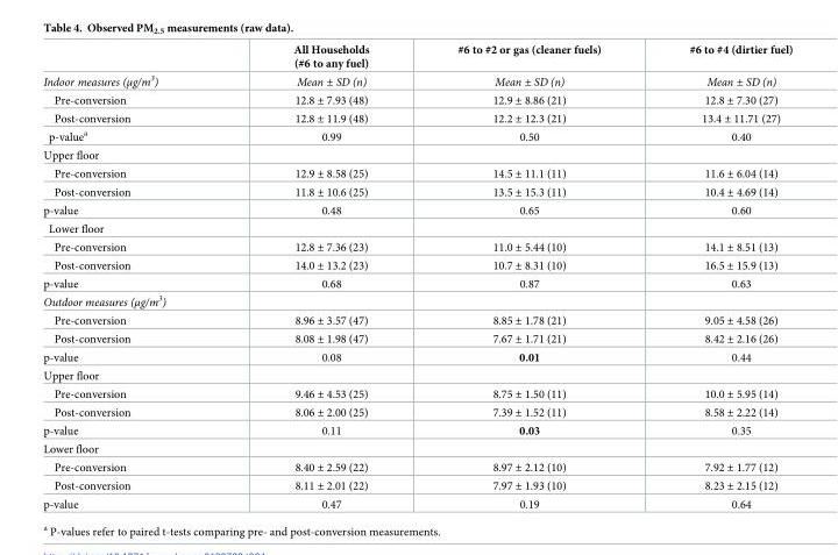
<table><thead><tr><td></td><td>All Households (#6 to any fuel)</td><td>#6 to #2 or gas (cleaner fuels)</td><td>#6 to #4 (dirtier fuel)</td></tr></thead><tbody><tr><td>Indoor measures (μg/m<sup>3</sup>)</td><td>Mean ± SD (n)</td><td>Mean ± SD (n)</td><td>Mean ± SD (n)</td></tr><tr><td>Pre-conversion</td><td>12.8 ± 7.93 (48)</td><td>12.9 ± 8.86 (21)</td><td>12.8 ± 7.30 (27)</td></tr><tr><td>Post-conversion</td><td>12.8 ± 11.9 (48)</td><td>12.2 ± 12.3 (21)</td><td>13.4 ± 11.71 (27)</td></tr><tr><td>p-value<sup>a</sup></td><td>0.99</td><td>0.50</td><td>0.40</td></tr><tr><td colspan="4">Upper floor</td></tr><tr><td>Pre-conversion</td><td>12.9 ± 8.58 (25)</td><td>14.5 ± 11.1 (11)</td><td>11.6 ± 6.04 (14)</td></tr><tr><td>Post-conversion</td><td>11.8 ± 10.6 (25)</td><td>13.5 ± 15.3 (11)</td><td>10.4 ± 4.69 (14)</td></tr><tr><td>p-value</td><td>0.48</td><td>0.65</td><td>0.60</td></tr><tr><td colspan="4">Lower floor</td></tr><tr><td>Pre-conversion</td><td>12.8 ± 7.36 (23)</td><td>11.0 ± 5.44 (10)</td><td>14.1 ± 8.51 (13)</td></tr><tr><td>Post-conversion</td><td>14.0 ± 13.2 (23)</td><td>10.7 ± 8.31 (10)</td><td>16.5 ± 15.9 (13)</td></tr><tr><td>p-value</td><td>0.68</td><td>0.87</td><td>0.63</td></tr><tr><td colspan="4">Outdoor measures (μg/m<sup>3</sup>)</td></tr><tr><td>Pre-conversion</td><td>8.96 ± 3.57 (47)</td><td>8.85 ± 1.78 (21)</td><td>9.05 ± 4.58 (26)</td></tr><tr><td>Post-conversion</td><td>8.08 ± 1.98 (47)</td><td>7.67 ± 1.71 (21)</td><td>8.42 ± 2.16 (26)</td></tr><tr><td>p-value</td><td>0.08</td><td>0.01</td><td>0.44</td></tr><tr><td colspan="4">Upper floor</td></tr><tr><td>Pre-conversion</td><td>9.46 ± 4.53 (25)</td><td>8.75 ± 1.50 (11)</td><td>10.0 ± 5.95 (14)</td></tr><tr><td>Post-conversion</td><td>8.06 ± 2.00 (25)</td><td>7.39 ± 1.52 (11)</td><td>8.58 ± 2.22 (14)</td></tr><tr><td>p-value</td><td>0.11</td><td>0.03</td><td>0.35</td></tr><tr><td colspan="4">Lower floor</td></tr><tr><td>Pre-conversion</td><td>8.40 ± 2.59 (22)</td><td>8.97 ± 2.12 (10)</td><td>7.92 ± 1.77 (12)</td></tr><tr><td>Post-conversion</td><td>8.11 ± 2.01 (22)</td><td>7.97 ± 1.93 (10)</td><td>8.23 ± 2.15 (12)</td></tr><tr><td>p-value</td><td>0.47</td><td>0.19</td><td>0.64</td></tr></tbody></table>